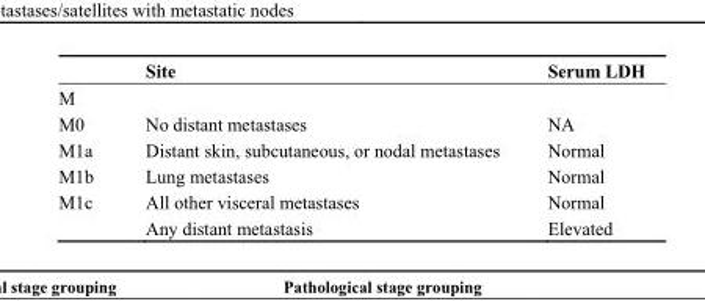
<table><thead><tr><td></td><td>Site</td><td>Serum LDH</td></tr></thead><tbody><tr><td colspan="3">M</td></tr><tr><td>M0</td><td>No distant metastases</td><td>NA</td></tr><tr><td>M1a</td><td>Distant skin, subcutaneous, or nodal metastases</td><td>Normal</td></tr><tr><td>M1b</td><td>Lung metastases</td><td>Normal</td></tr><tr><td rowspan="2">M1c</td><td>All other visceral metastases</td><td>Normal</td></tr><tr><td>Any distant metastasis</td><td>Elevated</td></tr></tbody></table>